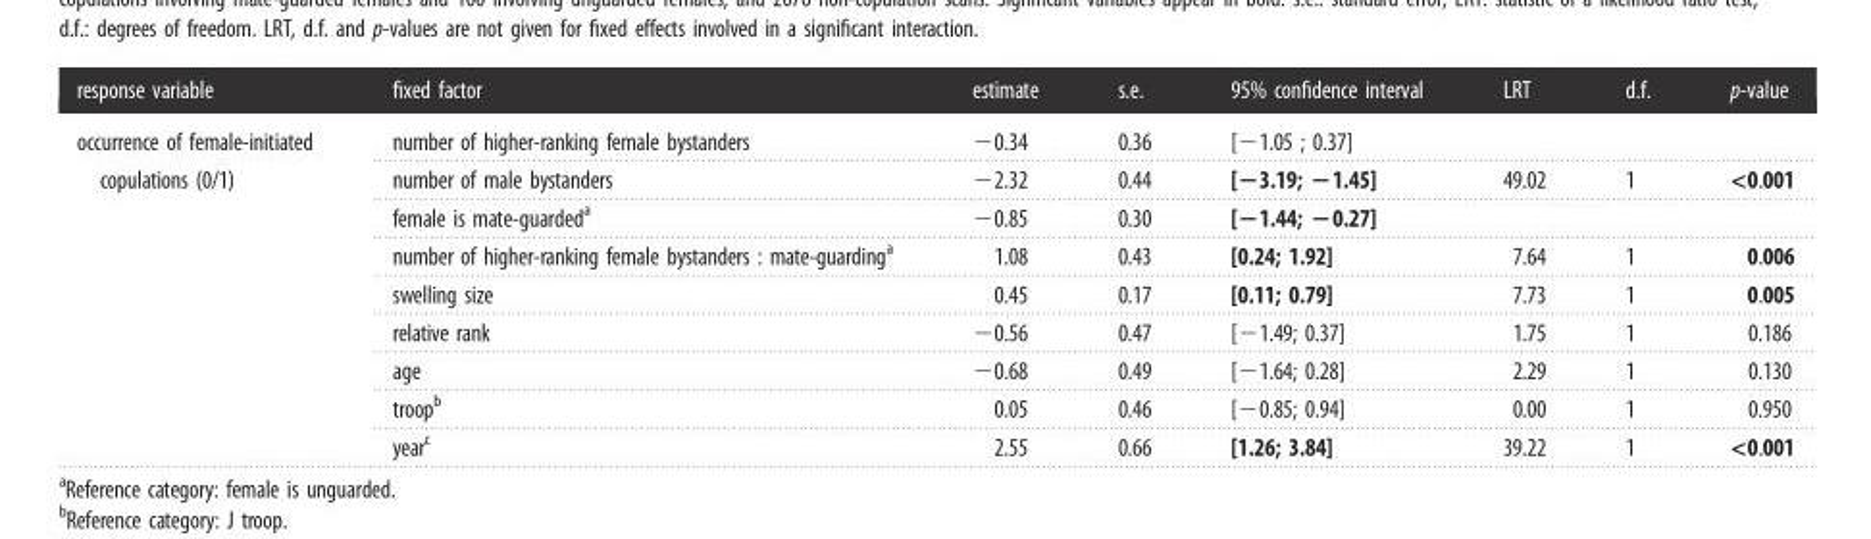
<table><thead><tr><td>response variable</td><td>fixed factor</td><td>estimate</td><td>s.e.</td><td>95% confidence interval</td><td>LRT</td><td>d.f.</td><td>p-value</td></tr></thead><tbody><tr><td rowspan="9">occurrence of female-initiated copulations (0/1)</td><td>number of higher-ranking female bystanders</td><td>−0.34</td><td>0.36</td><td>[−1.05 ; 0.37]</td><td></td><td></td><td></td></tr><tr><td>number of male bystanders</td><td>−2.32</td><td>0.44</td><td>[−3.19; −1.45]</td><td>49.02</td><td>1</td><td>&lt;0.001</td></tr><tr><td>female is mate-guarded<sup>a</sup></td><td>−0.85</td><td>0.30</td><td>[−1.44; −0.27]</td><td></td><td></td><td></td></tr><tr><td>number of higher-ranking female bystanders : mate-guarding<sup>a</sup></td><td>1.08</td><td>0.43</td><td>[0.24; 1.92]</td><td>7.64</td><td>1</td><td>0.006</td></tr><tr><td>swelling size</td><td>0.45</td><td>0.17</td><td>[0.11; 0.79]</td><td>7.73</td><td>1</td><td>0.005</td></tr><tr><td>relative rank</td><td>−0.56</td><td>0.47</td><td>[−1.49; 0.37]</td><td>1.75</td><td>1</td><td>0.186</td></tr><tr><td>age</td><td>−0.68</td><td>0.49</td><td>[−1.64; 0.28]</td><td>2.29</td><td>1</td><td>0.130</td></tr><tr><td>troop<sup>b</sup></td><td>0.05</td><td>0.46</td><td>[−0.85; 0.94]</td><td>0.00</td><td>1</td><td>0.950</td></tr><tr><td>year<sup>c</sup></td><td>2.55</td><td>0.66</td><td>[1.26; 3.84]</td><td>39.22</td><td>1</td><td>&lt;0.001</td></tr></tbody></table>